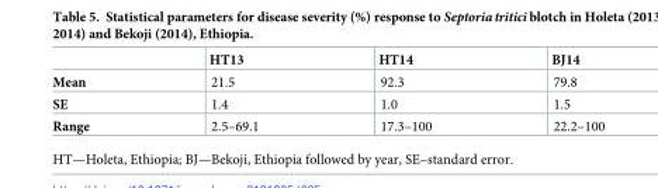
<table><thead><tr><td></td><td>HT13</td><td>HT14</td><td>BJ14</td></tr></thead><tbody><tr><td>Mean</td><td>21.5</td><td>92.3</td><td>79.8</td></tr><tr><td>SE</td><td>1.4</td><td>1.0</td><td>1.5</td></tr><tr><td>Range</td><td>2.5–69.1</td><td>17.3–100</td><td>22.2–100</td></tr></tbody></table>